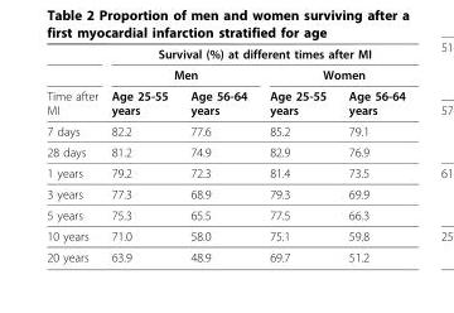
<table><thead><tr><td rowspan="3">Time after MI</td><td colspan="4">Survival (%) at different times after MI</td></tr><tr><td colspan="2">Men</td><td colspan="2">Women</td></tr><tr><td>Age 25-55 years</td><td>Age 56-64 years</td><td>Age 25-55 years</td><td>Age 56-64 years</td></tr></thead><tbody><tr><td>7 days</td><td>82.2</td><td>77.6</td><td>85.2</td><td>79.1</td></tr><tr><td>28 days</td><td>81.2</td><td>74.9</td><td>82.9</td><td>76.9</td></tr><tr><td>1 years</td><td>79.2</td><td>72.3</td><td>81.4</td><td>73.5</td></tr><tr><td>3 years</td><td>77.3</td><td>68.9</td><td>79.3</td><td>69.9</td></tr><tr><td>5 years</td><td>75.3</td><td>65.5</td><td>77.5</td><td>66.3</td></tr><tr><td>10 years</td><td>71.0</td><td>58.0</td><td>75.1</td><td>59.8</td></tr><tr><td>20 years</td><td>63.9</td><td>48.9</td><td>69.7</td><td>51.2</td></tr></tbody></table>